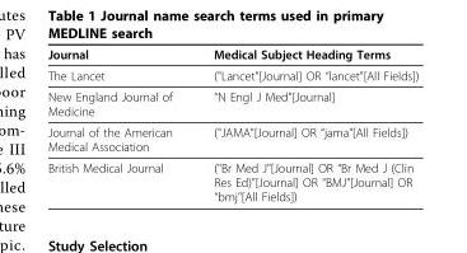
<table><thead><tr><td>Journal</td><td>Medical Subject Heading Terms</td></tr></thead><tbody><tr><td>The Lancet</td><td>(&quot;Lancet&quot;[Journal] OR “lancet&quot;[All Fields])</td></tr><tr><td>New England Journal of Medicine</td><td>“N Engl J Med&quot;[Journal]</td></tr><tr><td>Journal of the American Medical Association</td><td>(&quot;JAMA&quot;[Journal] OR “jama&quot;[All Fields])</td></tr><tr><td>British Medical Journal</td><td>(&quot;Br Med J&quot;[Journal] OR “Br Med J (Clin Res Ed)&quot;[Journal] OR “BMJ&quot;[Journal] OR “bmj&quot;[All Fields])</td></tr></tbody></table>